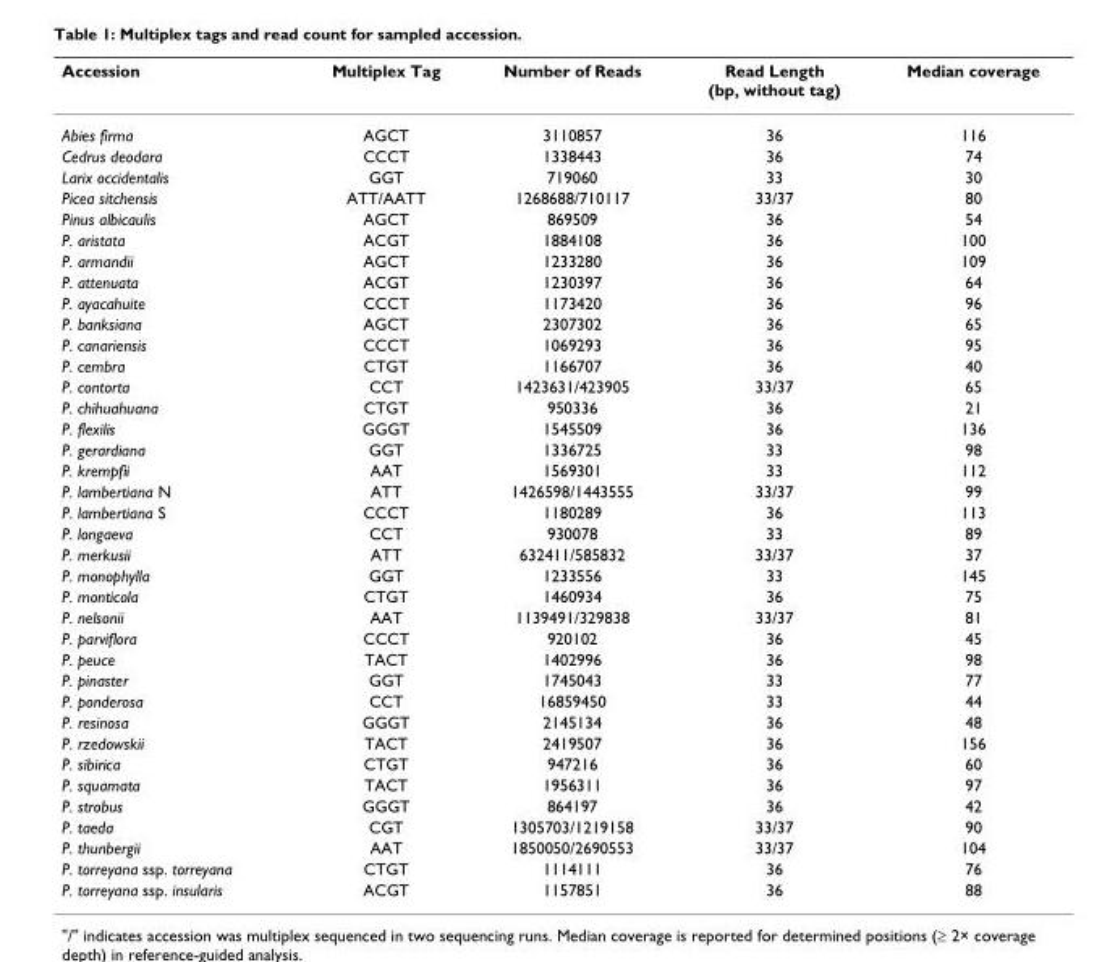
<table><thead><tr><td>Accession</td><td>Multiplex Tag</td><td>Number of Reads</td><td>Read Length (bp, without tag)</td><td>Median coverage</td></tr></thead><tbody><tr><td>Abies firma</td><td>AGCT</td><td>3110857</td><td>36</td><td>116</td></tr><tr><td>Cedrus deodara</td><td>CCCT</td><td>1338443</td><td>36</td><td>74</td></tr><tr><td>Larix occidentalis</td><td>GGT</td><td>719060</td><td>33</td><td>30</td></tr><tr><td>Picea sitchensis</td><td>ATT/AATT</td><td>1268688/710117</td><td>33/37</td><td>80</td></tr><tr><td>Pinus albicaulis</td><td>AGCT</td><td>869509</td><td>36</td><td>54</td></tr><tr><td>P. aristata</td><td>ACGT</td><td>1884108</td><td>36</td><td>100</td></tr><tr><td>P. armandii</td><td>AGCT</td><td>1233280</td><td>36</td><td>109</td></tr><tr><td>P. attenuata</td><td>ACGT</td><td>1230397</td><td>36</td><td>64</td></tr><tr><td>P. ayacahuite</td><td>CCCT</td><td>1173420</td><td>36</td><td>96</td></tr><tr><td>P. banksiana</td><td>AGCT</td><td>2307302</td><td>36</td><td>65</td></tr><tr><td>P. canariensis</td><td>CCCT</td><td>1069293</td><td>36</td><td>95</td></tr><tr><td>P. cembra</td><td>CTGT</td><td>1166707</td><td>36</td><td>40</td></tr><tr><td>P. contorta</td><td>CCT</td><td>1423631/423905</td><td>33/37</td><td>65</td></tr><tr><td>P. chihuahuana</td><td>CTGT</td><td>950336</td><td>36</td><td>21</td></tr><tr><td>P. flexilis</td><td>GGGT</td><td>1545509</td><td>36</td><td>136</td></tr><tr><td>P. gerardiana</td><td>GGT</td><td>1336725</td><td>33</td><td>98</td></tr><tr><td>P. krempfii</td><td>AAT</td><td>1569301</td><td>33</td><td>112</td></tr><tr><td>P. lambertiana N</td><td>ATT</td><td>1426598/1443555</td><td>33/37</td><td>99</td></tr><tr><td>P. lambertiana S</td><td>CCCT</td><td>1180289</td><td>36</td><td>113</td></tr><tr><td>P. longaeva</td><td>CCT</td><td>930078</td><td>33</td><td>89</td></tr><tr><td>P. merkusii</td><td>ATT</td><td>632411/585832</td><td>33/37</td><td>37</td></tr><tr><td>P. monophylla</td><td>GGT</td><td>1233556</td><td>33</td><td>145</td></tr><tr><td>P. monticola</td><td>CTGT</td><td>1460934</td><td>36</td><td>75</td></tr><tr><td>P. nelsonii</td><td>AAT</td><td>1139491/329838</td><td>33/37</td><td>81</td></tr><tr><td>P. parviflora</td><td>CCCT</td><td>920102</td><td>36</td><td>45</td></tr><tr><td>P. peuce</td><td>TACT</td><td>1402996</td><td>36</td><td>98</td></tr><tr><td>P. pinaster</td><td>GGT</td><td>1745043</td><td>33</td><td>77</td></tr><tr><td>P. ponderosa</td><td>CCT</td><td>16859450</td><td>33</td><td>44</td></tr><tr><td>P. resinosa</td><td>GGGT</td><td>2145134</td><td>36</td><td>48</td></tr><tr><td>P. rzedowskii</td><td>TACT</td><td>2419507</td><td>36</td><td>156</td></tr><tr><td>P. sibirica</td><td>CTGT</td><td>947216</td><td>36</td><td>60</td></tr><tr><td>P. squamata</td><td>TACT</td><td>1956311</td><td>36</td><td>97</td></tr><tr><td>P. strobus</td><td>GGGT</td><td>864197</td><td>36</td><td>42</td></tr><tr><td>P. taeda</td><td>CGT</td><td>1305703/1219158</td><td>33/37</td><td>90</td></tr><tr><td>P. thunbergii</td><td>AAT</td><td>1850050/2690553</td><td>33/37</td><td>104</td></tr><tr><td>P. torreyana ssp. torreyana</td><td>CTGT</td><td>1114111</td><td>36</td><td>76</td></tr><tr><td>P. torreyana ssp. insularis</td><td>ACGT</td><td>1157851</td><td>36</td><td>88</td></tr></tbody></table>